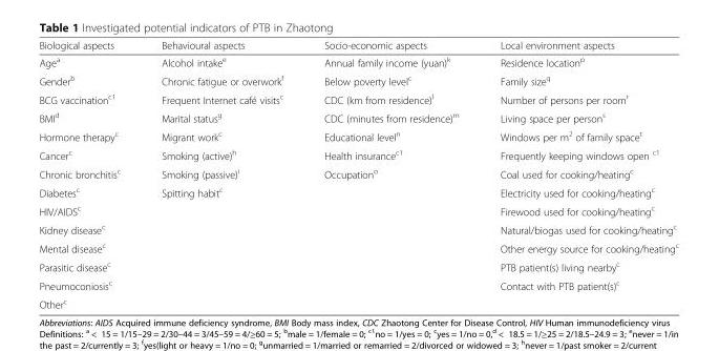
<table><thead><tr><td>Biological aspects</td><td>Behavioural aspects</td><td>Socio-economic aspects</td><td>Local environment aspects</td></tr></thead><tbody><tr><td>Age<sup>a</sup></td><td>Alcohol intake<sup>e</sup></td><td>Annual family income (yuan)<sup>k</sup></td><td>Residence location<sup>p</sup></td></tr><tr><td>Gender<sup>b</sup></td><td>Chronic fatigue or overwork<sup>f</sup></td><td>Below poverty level<sup>c</sup></td><td>Family size<sup>q</sup></td></tr><tr><td>BCG vaccination<sup>c1</sup></td><td>Frequent Internet café visits<sup>c</sup></td><td>CDC (km from residence)<sup>l</sup></td><td>Number of persons per room<sup>r</sup></td></tr><tr><td>BMI<sup>d</sup></td><td>Marital status<sup>g</sup></td><td>CDC (minutes from residence)<sup>m</sup></td><td>Living space per person<sup>s</sup></td></tr><tr><td>Hormone therapy<sup>c</sup></td><td>Migrant work<sup>c</sup></td><td>Educational level<sup>n</sup></td><td>Windows per m<sup>2</sup> of family space<sup>t</sup></td></tr><tr><td>Cancer<sup>c</sup></td><td>Smoking (active)<sup>h</sup></td><td>Health insurance<sup>c1</sup></td><td>Frequently keeping windows open <sup>c1</sup></td></tr><tr><td>Chronic bronchitis<sup>c</sup></td><td>Smoking (passive)<sup>i</sup></td><td>Occupation<sup>o</sup></td><td>Coal used for cooking/heating<sup>c</sup></td></tr><tr><td>Diabetes<sup>c</sup></td><td>Spitting habit<sup>c</sup></td><td></td><td>Electricity used for cooking/heating<sup>c</sup></td></tr><tr><td>HIV/AIDS<sup>c</sup></td><td></td><td></td><td>Firewood used for cooking/heating<sup>c</sup></td></tr><tr><td>Kidney disease<sup>c</sup></td><td></td><td></td><td>Natural/biogas used for cooking/heating<sup>c</sup></td></tr><tr><td>Mental disease<sup>c</sup></td><td></td><td></td><td>Other energy source for cooking/heating<sup>c</sup></td></tr><tr><td>Parasitic disease<sup>c</sup></td><td></td><td></td><td>PTB patient(s) living nearby<sup>c</sup></td></tr><tr><td>Pneumoconiosis<sup>c</sup></td><td></td><td></td><td>Contact with PTB patient(s)<sup>c</sup></td></tr><tr><td>Other<sup>c</sup></td><td></td><td></td><td></td></tr></tbody></table>